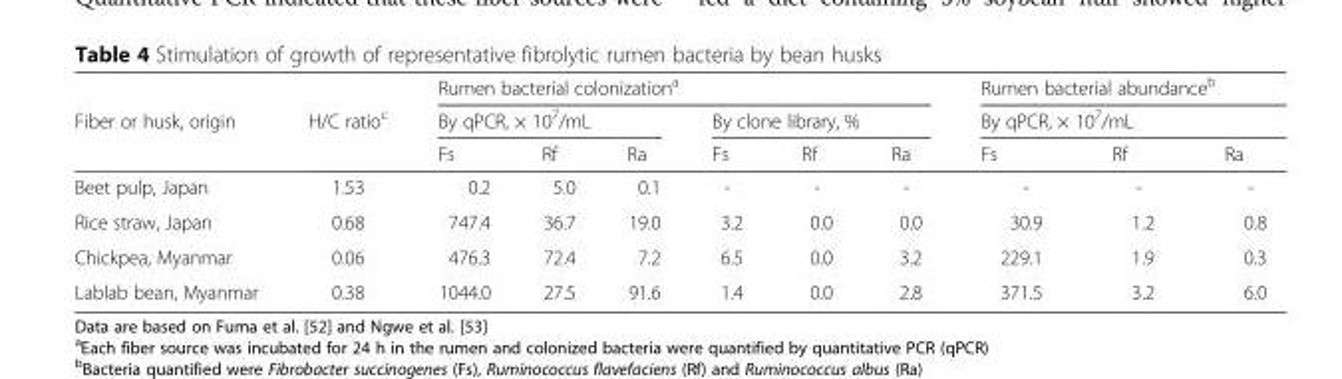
<table><thead><tr><td rowspan="3">Fiber or husk, origin</td><td rowspan="3">H/C ratio<sup>c</sup></td><td colspan="6">Rumen bacterial colonization<sup>a</sup></td><td rowspan="2" colspan="3">Rumen bacterial abundance<sup>b</sup> By qPCR, × 10<sup>7</sup>/mL</td></tr><tr><td colspan="3">By qPCR, × 10<sup>7</sup>/mL</td><td colspan="3">By clone library, %</td></tr><tr><td>Fs</td><td>Rf</td><td>Ra</td><td>Fs</td><td>Rf</td><td>Ra</td><td>Fs</td><td>Rf</td><td>Ra</td></tr></thead><tbody><tr><td>Beet pulp, Japan</td><td>1.53</td><td>0.2</td><td>5.0</td><td>0.1</td><td>-</td><td>-</td><td>-</td><td>-</td><td>-</td><td>-</td></tr><tr><td>Rice straw, Japan</td><td>0.68</td><td>747.4</td><td>36.7</td><td>19.0</td><td>3.2</td><td>0.0</td><td>0.0</td><td>30.9</td><td>1.2</td><td>0.8</td></tr><tr><td>Chickpea, Myanmar</td><td>0.06</td><td>476.3</td><td>72.4</td><td>7.2</td><td>6.5</td><td>0.0</td><td>3.2</td><td>229.1</td><td>1.9</td><td>0.3</td></tr><tr><td>Lablab bean, Myanmar</td><td>0.38</td><td>1044.0</td><td>27.5</td><td>91.6</td><td>1.4</td><td>0.0</td><td>2.8</td><td>371.5</td><td>3.2</td><td>6.0</td></tr></tbody></table>